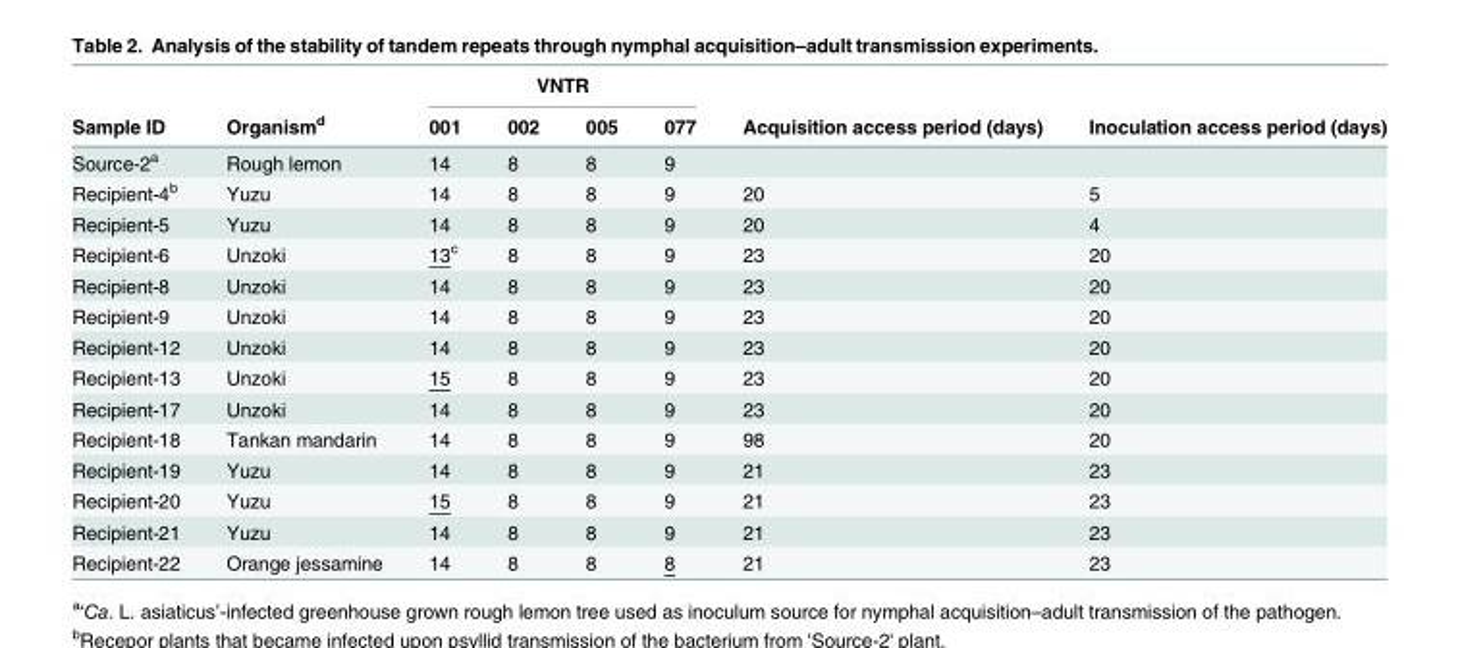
<table><thead><tr><td rowspan="2">Sample ID</td><td rowspan="2">Organism<sup>d</sup></td><td colspan="4">VNTR</td><td rowspan="2">Acquisition access period (days)</td><td rowspan="2">Inoculation access period (days)</td></tr><tr><td>001</td><td>002</td><td>005</td><td>077</td></tr></thead><tbody><tr><td>Source-2<sup>a</sup></td><td>Rough lemon</td><td>14</td><td>8</td><td>8</td><td>9</td><td></td><td></td></tr><tr><td>Recipient-4<sup>b</sup></td><td>Yuzu</td><td>14</td><td>8</td><td>8</td><td>9</td><td>20</td><td>5</td></tr><tr><td>Recipient-5</td><td>Yuzu</td><td>14</td><td>8</td><td>8</td><td>9</td><td>20</td><td>4</td></tr><tr><td>Recipient-6</td><td>Unzoki</td><td>13<sup>c</sup></td><td>8</td><td>8</td><td>9</td><td>23</td><td>20</td></tr><tr><td>Recipient-8</td><td>Unzoki</td><td>14</td><td>8</td><td>8</td><td>9</td><td>23</td><td>20</td></tr><tr><td>Recipient-9</td><td>Unzoki</td><td>14</td><td>8</td><td>8</td><td>9</td><td>23</td><td>20</td></tr><tr><td>Recipient-12</td><td>Unzoki</td><td>14</td><td>8</td><td>8</td><td>9</td><td>23</td><td>20</td></tr><tr><td>Recipient-13</td><td>Unzoki</td><td>15</td><td>8</td><td>8</td><td>9</td><td>23</td><td>20</td></tr><tr><td>Recipient-17</td><td>Unzoki</td><td>14</td><td>8</td><td>8</td><td>9</td><td>23</td><td>20</td></tr><tr><td>Recipient-18</td><td>Tankan mandarin</td><td>14</td><td>8</td><td>8</td><td>9</td><td>98</td><td>20</td></tr><tr><td>Recipient-19</td><td>Yuzu</td><td>14</td><td>8</td><td>8</td><td>9</td><td>21</td><td>23</td></tr><tr><td>Recipient-20</td><td>Yuzu</td><td>15</td><td>8</td><td>8</td><td>9</td><td>21</td><td>23</td></tr><tr><td>Recipient-21</td><td>Yuzu</td><td>14</td><td>8</td><td>8</td><td>9</td><td>21</td><td>23</td></tr><tr><td>Recipient-22</td><td>Orange jessamine</td><td>14</td><td>8</td><td>8</td><td>8</td><td>21</td><td>23</td></tr></tbody></table>